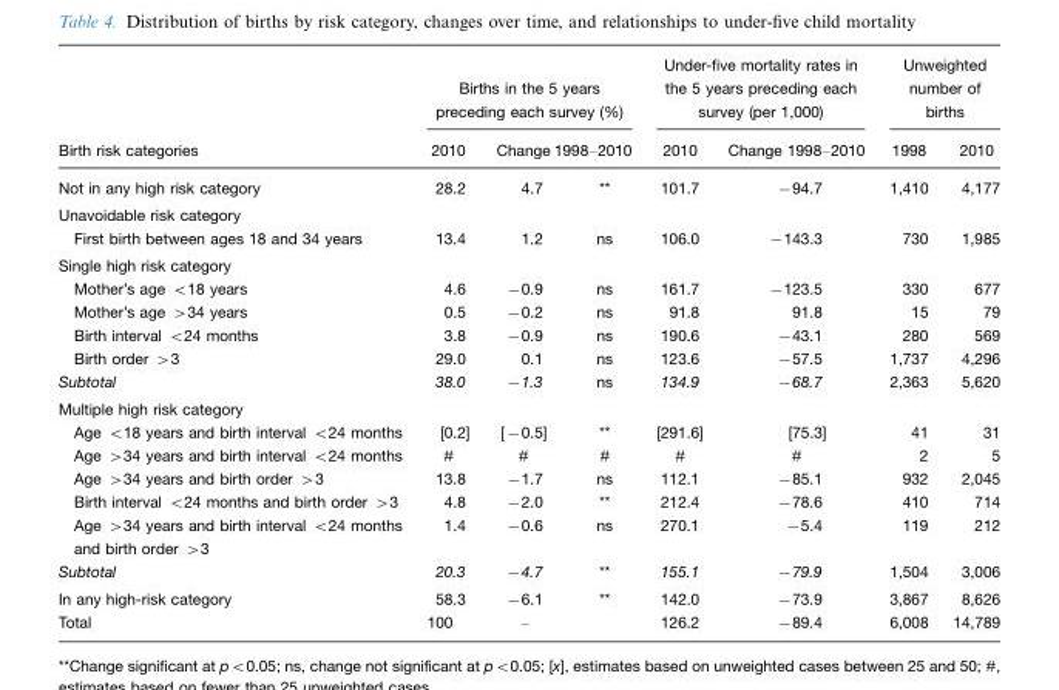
<table><thead><tr><td rowspan="2">Birth risk categories</td><td colspan="3">Births in the 5 years preceding each survey (%)</td><td colspan="2">Under-five mortality rates in the 5 years preceding each survey (per 1,000)</td><td colspan="2">Unweighted number of births</td></tr><tr><td>2010</td><td>Change</td><td>1998–2010</td><td>2010</td><td>Change 1998–2010</td><td>1998</td><td>2010</td></tr></thead><tbody><tr><td>Not in any high risk category</td><td>28.2</td><td>4.7</td><td>**</td><td>101.7</td><td>−94.7</td><td>1,410</td><td>4,177</td></tr><tr><td colspan="8">Unavoidable risk category</td></tr><tr><td>First birth between ages 18 and 34 years</td><td>13.4</td><td>1.2</td><td>ns</td><td>106.0</td><td>−143.3</td><td>730</td><td>1,985</td></tr><tr><td colspan="8">Single high risk category</td></tr><tr><td>Mother’s age &lt;18 years</td><td>4.6</td><td>−0.9</td><td>ns</td><td>161.7</td><td>−123.5</td><td>330</td><td>677</td></tr><tr><td>Mother’s age &gt;34 years</td><td>0.5</td><td>−0.2</td><td>ns</td><td>91.8</td><td>91.8</td><td>15</td><td>79</td></tr><tr><td>Birth interval &lt;24 months</td><td>3.8</td><td>−0.9</td><td>ns</td><td>190.6</td><td>−43.1</td><td>280</td><td>569</td></tr><tr><td>Birth order &gt;3</td><td>29.0</td><td>0.1</td><td>ns</td><td>123.6</td><td>−57.5</td><td>1,737</td><td>4,296</td></tr><tr><td>Subtotal</td><td>38.0</td><td>−1.3</td><td>ns</td><td>134.9</td><td>−68.7</td><td>2,363</td><td>5,620</td></tr><tr><td colspan="8">Multiple high risk category</td></tr><tr><td>Age &lt;18 years and birth interval &lt;24 months</td><td>[0.2]</td><td>[−0.5]</td><td>**</td><td>[291.6]</td><td>[75.3]</td><td>41</td><td>31</td></tr><tr><td>Age &gt;34 years and birth interval &lt;24 months</td><td>#</td><td>#</td><td>#</td><td>#</td><td>#</td><td>2</td><td>5</td></tr><tr><td>Age &gt;34 years and birth order &gt;3</td><td>13.8</td><td>−1.7</td><td>ns</td><td>112.1</td><td>−85.1</td><td>932</td><td>2,045</td></tr><tr><td>Birth interval &lt;24 months and birth order &gt;3</td><td>4.8</td><td>−2.0</td><td>**</td><td>212.4</td><td>−78.6</td><td>410</td><td>714</td></tr><tr><td>Age &gt;34 years and birth interval &lt;24 months and birth order &gt;3</td><td>1.4</td><td>−0.6</td><td>ns</td><td>270.1</td><td>−5.4</td><td>119</td><td>212</td></tr><tr><td>Subtotal</td><td>20.3</td><td>−4.7</td><td>**</td><td>155.1</td><td>−79.9</td><td>1,504</td><td>3,006</td></tr><tr><td>In any high-risk category</td><td>58.3</td><td>−6.1</td><td>**</td><td>142.0</td><td>−73.9</td><td>3,867</td><td>8,626</td></tr><tr><td>Total</td><td>100</td><td>–</td><td></td><td>126.2</td><td>−89.4</td><td>6,008</td><td>14,789</td></tr></tbody></table>